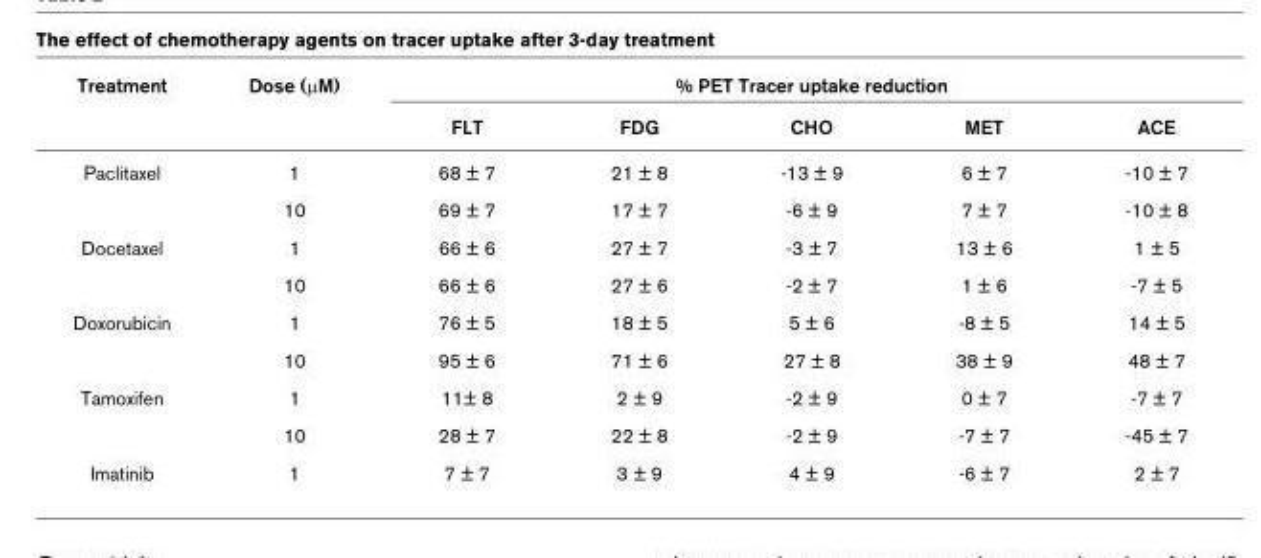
<table><thead><tr><td rowspan="2">Treatment</td><td rowspan="2">Dose (μM)</td><td colspan="5">% PET Tracer uptake reduction</td></tr><tr><td>FLT</td><td>FDG</td><td>CHO</td><td>MET</td><td>ACE</td></tr></thead><tbody><tr><td rowspan="2">Paclitaxel</td><td>1</td><td>68 ± 7</td><td>21 ± 8</td><td>-13 ± 9</td><td>6 ± 7</td><td>-10 ± 7</td></tr><tr><td>10</td><td>69 ± 7</td><td>17 ± 7</td><td>-6 ± 9</td><td>7 ± 7</td><td>-10 ± 8</td></tr><tr><td rowspan="2">Docetaxel</td><td>1</td><td>66 ± 6</td><td>27 ± 7</td><td>-3 ± 7</td><td>13 ± 6</td><td>1 ± 5</td></tr><tr><td>10</td><td>66 ± 6</td><td>27 ± 6</td><td>-2 ± 7</td><td>1 ± 6</td><td>-7 ± 5</td></tr><tr><td rowspan="2">Doxorubicin</td><td>1</td><td>76 ± 5</td><td>18 ± 5</td><td>5 ± 6</td><td>-8 ± 5</td><td>14 ± 5</td></tr><tr><td>10</td><td>95 ± 6</td><td>71 ± 6</td><td>27 ± 8</td><td>38 ± 9</td><td>48 ± 7</td></tr><tr><td rowspan="2">Tamoxifen</td><td>1</td><td>11± 8</td><td>2 ± 9</td><td>-2 ± 9</td><td>0 ± 7</td><td>-7 ± 7</td></tr><tr><td>10</td><td>28 ± 7</td><td>22 ± 8</td><td>-2 ± 9</td><td>-7 ± 7</td><td>-45 ± 7</td></tr><tr><td>Imatinib</td><td>1</td><td>7 ± 7</td><td>3 ± 9</td><td>4 ± 9</td><td>-6 ± 7</td><td>2 ± 7</td></tr></tbody></table>